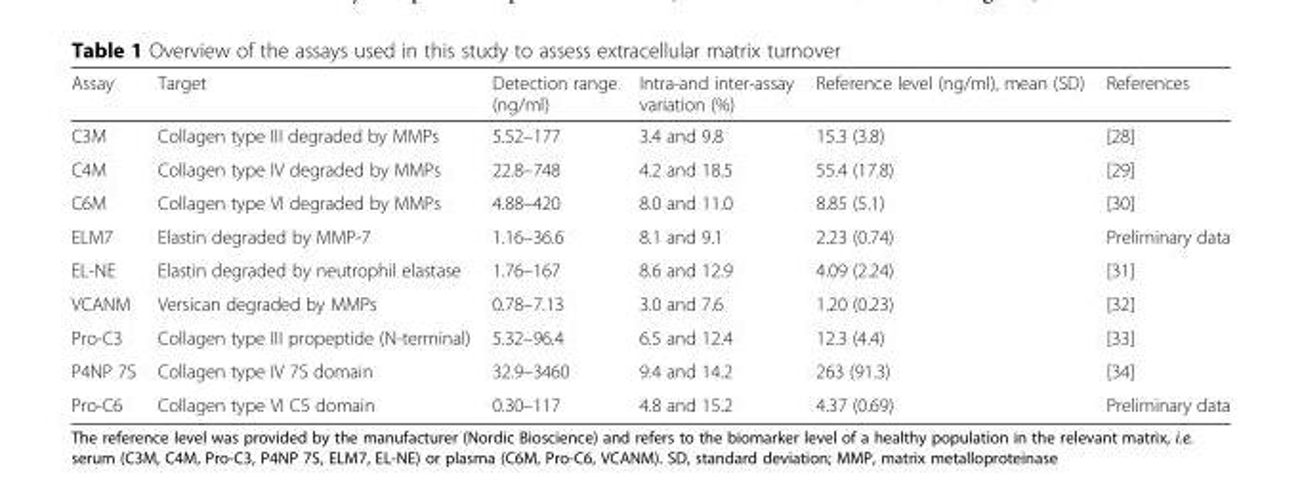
<table><thead><tr><td>Assay</td><td>Target</td><td>Detection range (ng/ml)</td><td>Intra-and inter-assay variation (%)</td><td>Reference level (ng/ml), mean (SD)</td><td>References</td></tr></thead><tbody><tr><td>C3M</td><td>Collagen type III degraded by MMPs</td><td>5.52–177</td><td>3.4 and 9.8</td><td>15.3 (3.8)</td><td>[28]</td></tr><tr><td>C4M</td><td>Collagen type IV degraded by MMPs</td><td>22.8–748</td><td>4.2 and 18.5</td><td>55.4 (17.8)</td><td>[29]</td></tr><tr><td>C6M</td><td>Collagen type VI degraded by MMPs</td><td>4.88–420</td><td>8.0 and 11.0</td><td>8.85 (5.1)</td><td>[30]</td></tr><tr><td>ELM7</td><td>Elastin degraded by MMP-7</td><td>1.16–36.6</td><td>8.1 and 9.1</td><td>2.23 (0.74)</td><td>Preliminary data</td></tr><tr><td>EL-NE</td><td>Elastin degraded by neutrophil elastase</td><td>1.76–167</td><td>8.6 and 12.9</td><td>4.09 (2.24)</td><td>[31]</td></tr><tr><td>VCANM</td><td>Versican degraded by MMPs</td><td>0.78–7.13</td><td>3.0 and 7.6</td><td>1.20 (0.23)</td><td>[32]</td></tr><tr><td>Pro-C3</td><td>Collagen type III propeptide (N-terminal)</td><td>5.32–96.4</td><td>6.5 and 12.4</td><td>12.3 (4.4)</td><td>[33]</td></tr><tr><td>P4NP 7S</td><td>Collagen type IV 7S domain</td><td>32.9–3460</td><td>9.4 and 14.2</td><td>263 (91.3)</td><td>[34]</td></tr><tr><td>Pro-C6</td><td>Collagen type VI C5 domain</td><td>0.30–117</td><td>4.8 and 15.2</td><td>4.37 (0.69)</td><td>Preliminary data</td></tr></tbody></table>